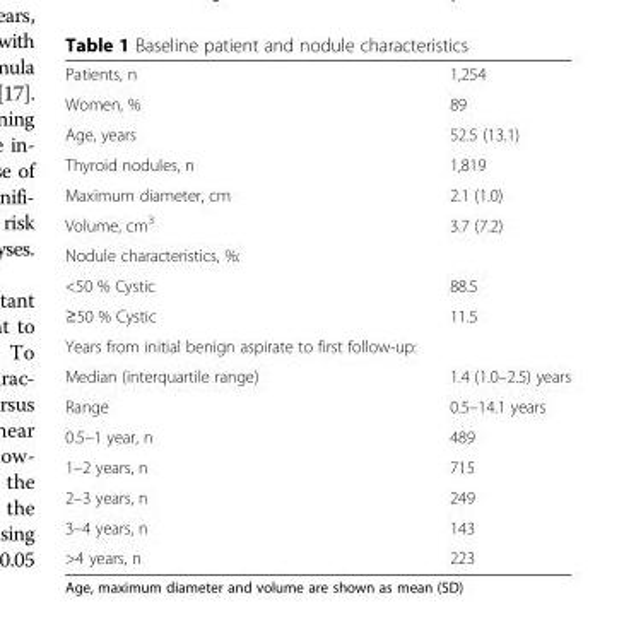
<table><tbody><tr><td>Patients, n</td><td>1,254</td></tr><tr><td>Women, %</td><td>89</td></tr><tr><td>Age, years</td><td>52.5 (13.1)</td></tr><tr><td>Thyroid nodules, n</td><td>1,819</td></tr><tr><td>Maximum diameter, cm</td><td>2.1 (1.0)</td></tr><tr><td>Volume, cm<sup>3</sup></td><td>3.7 (7.2)</td></tr><tr><td colspan="2">Nodule characteristics, %:</td></tr><tr><td>&lt;50 % Cystic</td><td>88.5</td></tr><tr><td>≥50 % Cystic</td><td>11.5</td></tr><tr><td colspan="2">Years from initial benign aspirate to first follow-up:</td></tr><tr><td>Median (interquartile range)</td><td>1.4 (1.0–2.5) years</td></tr><tr><td>Range</td><td>0.5–14.1 years</td></tr><tr><td>0.5–1 year, n</td><td>489</td></tr><tr><td>1–2 years, n</td><td>715</td></tr><tr><td>2–3 years, n</td><td>249</td></tr><tr><td>3–4 years, n</td><td>143</td></tr><tr><td>&gt;4 years, n</td><td>223</td></tr></tbody></table>